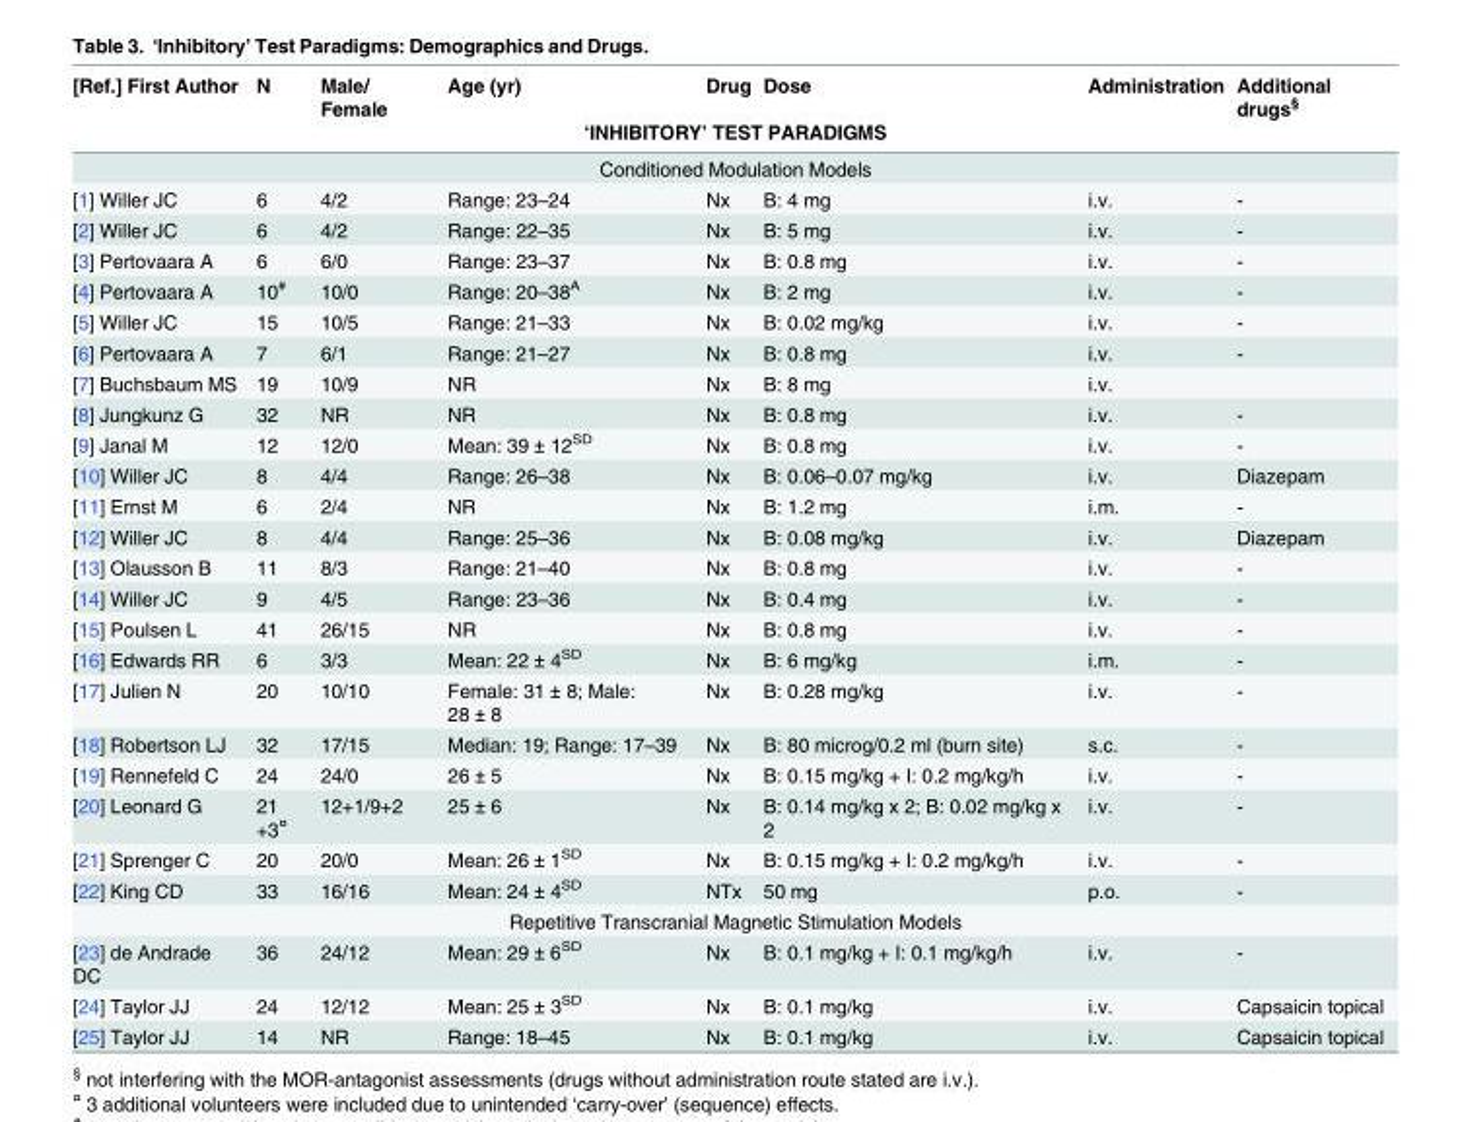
<table><thead><tr><td>[Ref.] First Author</td><td>N</td><td>Male/ Female</td><td>Age (yr)</td><td>Drug</td><td>Dose</td><td>Administration</td><td>Additional drugs<sup>§</sup></td></tr><tr><td colspan="8">‘INHIBITORY’ TEST PARADIGMS</td></tr></thead><tbody><tr><td colspan="8">Conditioned Modulation Models</td></tr><tr><td>[1] Willer JC</td><td>6</td><td>4/2</td><td>Range: 23–24</td><td>Nx</td><td>B: 4 mg</td><td>i.v.</td><td>-</td></tr><tr><td>[2] Willer JC</td><td>6</td><td>4/2</td><td>Range: 22–35</td><td>Nx</td><td>B: 5 mg</td><td>i.v.</td><td>-</td></tr><tr><td>[3] Pertovaara A</td><td>6</td><td>6/0</td><td>Range: 23–37</td><td>Nx</td><td>B: 0.8 mg</td><td>i.v.</td><td>-</td></tr><tr><td>[4] Pertovaara A</td><td>10<sup>#</sup></td><td>10/0</td><td>Range: 20–38<sup>A</sup></td><td>Nx</td><td>B: 2 mg</td><td>i.v.</td><td>-</td></tr><tr><td>[5] Willer JC</td><td>15</td><td>10/5</td><td>Range: 21–33</td><td>Nx</td><td>B: 0.02 mg/kg</td><td>i.v.</td><td>-</td></tr><tr><td>[6] Pertovaara A</td><td>7</td><td>6/1</td><td>Range: 21–27</td><td>Nx</td><td>B: 0.8 mg</td><td>i.v.</td><td>-</td></tr><tr><td>[7] Buchsbaum MS</td><td>19</td><td>10/9</td><td>NR</td><td>Nx</td><td>B: 8 mg</td><td>i.v.</td><td></td></tr><tr><td>[8] Jungkunz G</td><td>32</td><td>NR</td><td>NR</td><td>Nx</td><td>B: 0.8 mg</td><td>i.v.</td><td>-</td></tr><tr><td>[9] Janal M</td><td>12</td><td>12/0</td><td>Mean: 39 ± 12<sup>SD</sup></td><td>Nx</td><td>B: 0.8 mg</td><td>i.v.</td><td>-</td></tr><tr><td>[10] Willer JC</td><td>8</td><td>4/4</td><td>Range: 26–38</td><td>Nx</td><td>B: 0.06–0.07 mg/kg</td><td>i.v.</td><td>Diazepam</td></tr><tr><td>[11] Ernst M</td><td>6</td><td>2/4</td><td>NR</td><td>Nx</td><td>B: 1.2 mg</td><td>i.m.</td><td>-</td></tr><tr><td>[12] Willer JC</td><td>8</td><td>4/4</td><td>Range: 25–36</td><td>Nx</td><td>B: 0.08 mg/kg</td><td>i.v.</td><td>Diazepam</td></tr><tr><td>[13] Olausson B</td><td>11</td><td>8/3</td><td>Range: 21–40</td><td>Nx</td><td>B: 0.8 mg</td><td>i.v.</td><td>-</td></tr><tr><td>[14] Willer JC</td><td>9</td><td>4/5</td><td>Range: 23–36</td><td>Nx</td><td>B: 0.4 mg</td><td>i.v.</td><td>-</td></tr><tr><td>[15] Poulsen L</td><td>41</td><td>26/15</td><td>NR</td><td>Nx</td><td>B: 0.8 mg</td><td>i.v.</td><td>-</td></tr><tr><td>[16] Edwards RR</td><td>6</td><td>3/3</td><td>Mean: 22 ± 4<sup>SD</sup></td><td>Nx</td><td>B: 6 mg/kg</td><td>i.m.</td><td>-</td></tr><tr><td>[17] Julien N</td><td>20</td><td>10/10</td><td>Female: 31 ± 8; Male: 28 ± 8</td><td>Nx</td><td>B: 0.28 mg/kg</td><td>i.v.</td><td>-</td></tr><tr><td>[18] Robertson LJ</td><td>32</td><td>17/15</td><td>Median: 19; Range: 17–39</td><td>Nx</td><td>B: 80 microg/0.2 ml (burn site)</td><td>s.c.</td><td>-</td></tr><tr><td>[19] Rennefeld C</td><td>24</td><td>24/0</td><td>26 ± 5</td><td>Nx</td><td>B: 0.15 mg/kg + I: 0.2 mg/kg/h</td><td>i.v.</td><td>-</td></tr><tr><td>[20] Leonard G</td><td>21 +3<sup>¤</sup></td><td>12+1/9+2</td><td>25 ± 6</td><td>Nx</td><td>B: 0.14 mg/kg x 2; B: 0.02 mg/kg x 2</td><td>i.v.</td><td>-</td></tr><tr><td>[21] Sprenger C</td><td>20</td><td>20/0</td><td>Mean: 26 ± 1<sup>SD</sup></td><td>Nx</td><td>B: 0.15 mg/kg + I: 0.2 mg/kg/h</td><td>i.v.</td><td>-</td></tr><tr><td>[22] King CD</td><td>33</td><td>16/16</td><td>Mean: 24 ± 4<sup>SD</sup></td><td>NTx</td><td>50 mg</td><td>p.o.</td><td>-</td></tr><tr><td colspan="8">Repetitive Transcranial Magnetic Stimulation Models</td></tr><tr><td>[23] de Andrade DC</td><td>36</td><td>24/12</td><td>Mean: 29 ± 6<sup>SD</sup></td><td>Nx</td><td>B: 0.1 mg/kg + I: 0.1 mg/kg/h</td><td>i.v.</td><td>-</td></tr><tr><td>[24] Taylor JJ</td><td>24</td><td>12/12</td><td>Mean: 25 ± 3<sup>SD</sup></td><td>Nx</td><td>B: 0.1 mg/kg</td><td>i.v.</td><td>Capsaicin topical</td></tr><tr><td>[25] Taylor JJ</td><td>14</td><td>NR</td><td>Range: 18–45</td><td>Nx</td><td>B: 0.1 mg/kg</td><td>i.v.</td><td>Capsaicin topical</td></tr></tbody></table>